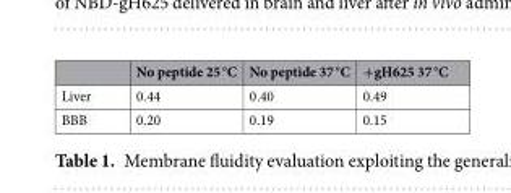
<table><thead><tr><td></td><td>No peptide 25 °C</td><td>No peptide 37 °C</td><td>+gH625 37 °C</td></tr></thead><tbody><tr><td>Liver</td><td>0.44</td><td>0.40</td><td>0.49</td></tr><tr><td>BBB</td><td>0.20</td><td>0.19</td><td>0.15</td></tr></tbody></table>